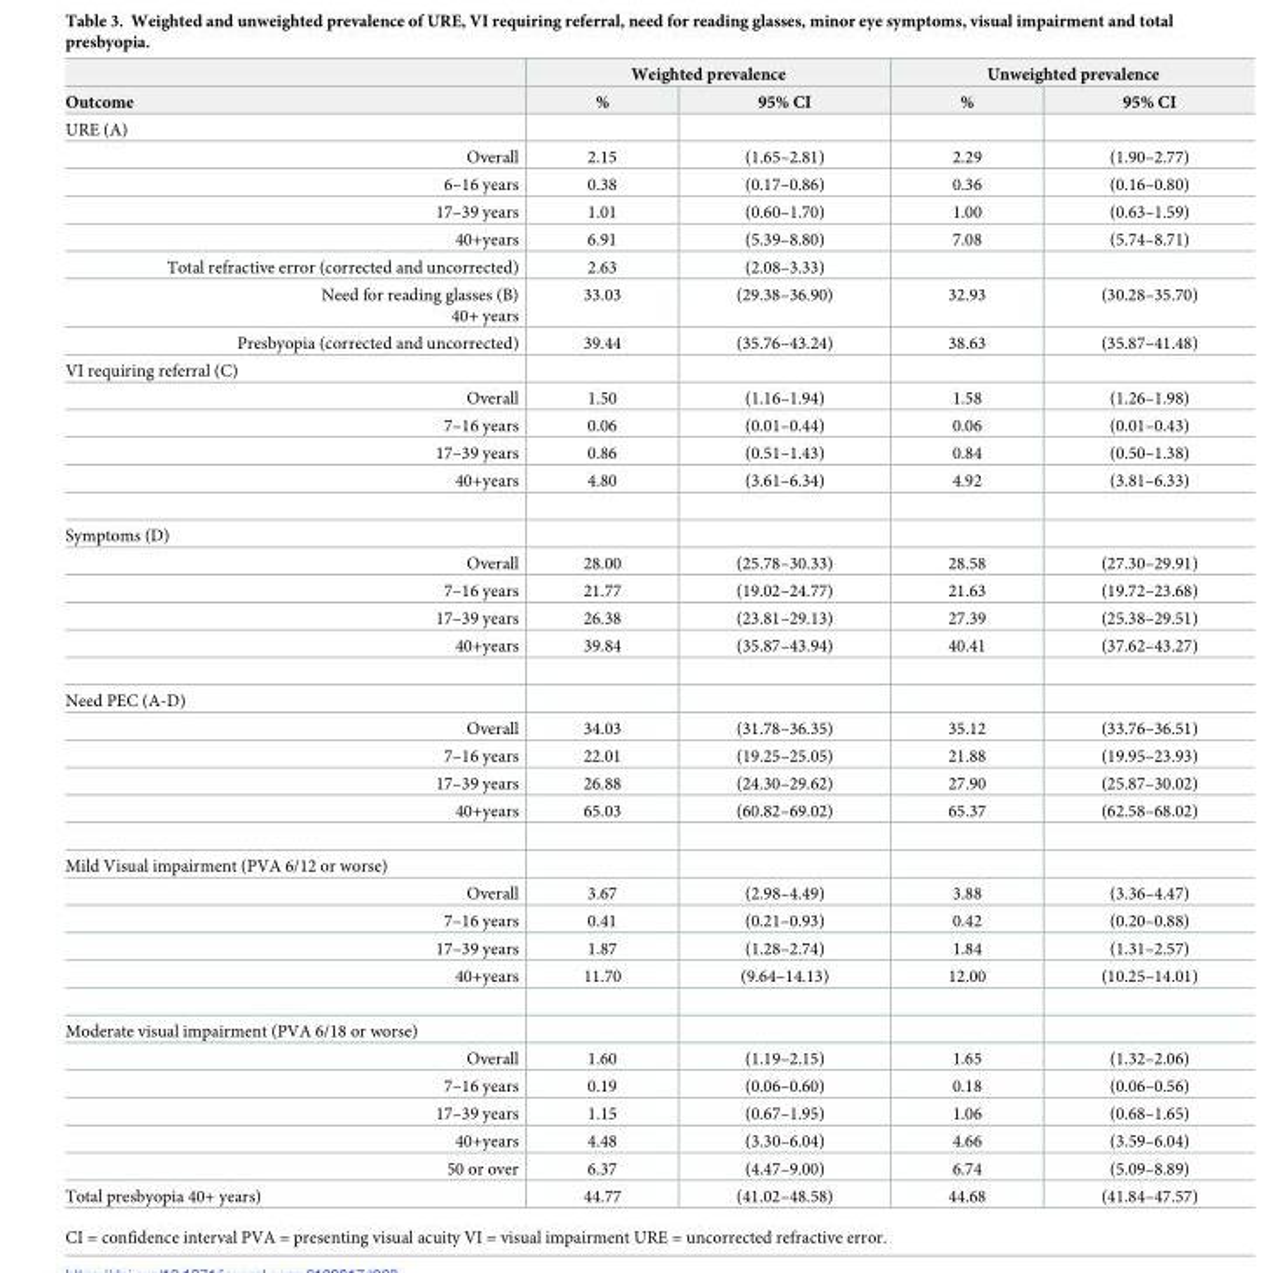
<table><thead><tr><td rowspan="2">Outcome</td><td colspan="2">Weighted prevalence</td><td colspan="2">Unweighted prevalence</td></tr><tr><td>%</td><td>95% CI</td><td>%</td><td>95% CI</td></tr></thead><tbody><tr><td colspan="5">URE (A)</td></tr><tr><td>Overall</td><td>2.15</td><td>(1.65–2.81)</td><td>2.29</td><td>(1.90–2.77)</td></tr><tr><td>6–16 years</td><td>0.38</td><td>(0.17–0.86)</td><td>0.36</td><td>(0.16–0.80)</td></tr><tr><td>17–39 years</td><td>1.01</td><td>(0.60–1.70)</td><td>1.00</td><td>(0.63–1.59)</td></tr><tr><td>40+years</td><td>6.91</td><td>(5.39–8.80)</td><td>7.08</td><td>(5.74–8.71)</td></tr><tr><td>Total refractive error (corrected and uncorrected)</td><td>2.63</td><td>(2.08–3.33)</td><td></td><td></td></tr><tr><td>Need for reading glasses (B) 40+ years</td><td>33.03</td><td>(29.38–36.90)</td><td>32.93</td><td>(30.28–35.70)</td></tr><tr><td>Presbyopia (corrected and uncorrected)</td><td>39.44</td><td>(35.76–43.24)</td><td>38.63</td><td>(35.87–41.48)</td></tr><tr><td colspan="5">VI requiring referral (C)</td></tr><tr><td>Overall</td><td>1.50</td><td>(1.16–1.94)</td><td>1.58</td><td>(1.26–1.98)</td></tr><tr><td>7–16 years</td><td>0.06</td><td>(0.01–0.44)</td><td>0.06</td><td>(0.01–0.43)</td></tr><tr><td>17–39 years</td><td>0.86</td><td>(0.51–1.43)</td><td>0.84</td><td>(0.50–1.38)</td></tr><tr><td>40+years</td><td>4.80</td><td>(3.61–6.34)</td><td>4.92</td><td>(3.81–6.33)</td></tr><tr><td colspan="5">Symptoms (D)</td></tr><tr><td>Overall</td><td>28.00</td><td>(25.78–30.33)</td><td>28.58</td><td>(27.30–29.91)</td></tr><tr><td>7–16 years</td><td>21.77</td><td>(19.02–24.77)</td><td>21.63</td><td>(19.72–23.68)</td></tr><tr><td>17–39 years</td><td>26.38</td><td>(23.81–29.13)</td><td>27.39</td><td>(25.38–29.51)</td></tr><tr><td>40+years</td><td>39.84</td><td>(35.87–43.94)</td><td>40.41</td><td>(37.62–43.27)</td></tr><tr><td colspan="5">Need PEC (A-D)</td></tr><tr><td>Overall</td><td>34.03</td><td>(31.78–36.35)</td><td>35.12</td><td>(33.76–36.51)</td></tr><tr><td>7–16 years</td><td>22.01</td><td>(19.25–25.05)</td><td>21.88</td><td>(19.95–23.93)</td></tr><tr><td>17–39 years</td><td>26.88</td><td>(24.30–29.62)</td><td>27.90</td><td>(25.87–30.02)</td></tr><tr><td>40+years</td><td>65.03</td><td>(60.82–69.02)</td><td>65.37</td><td>(62.58–68.02)</td></tr><tr><td colspan="5">Mild Visual impairment (PVA 6/12 or worse)</td></tr><tr><td>Overall</td><td>3.67</td><td>(2.98–4.49)</td><td>3.88</td><td>(3.36–4.47)</td></tr><tr><td>7–16 years</td><td>0.41</td><td>(0.21–0.93)</td><td>0.42</td><td>(0.20–0.88)</td></tr><tr><td>17–39 years</td><td>1.87</td><td>(1.28–2.74)</td><td>1.84</td><td>(1.31–2.57)</td></tr><tr><td>40+years</td><td>11.70</td><td>(9.64–14.13)</td><td>12.00</td><td>(10.25–14.01)</td></tr><tr><td colspan="5">Moderate visual impairment (PVA 6/18 or worse)</td></tr><tr><td>Overall</td><td>1.60</td><td>(1.19–2.15)</td><td>1.65</td><td>(1.32–2.06)</td></tr><tr><td>7–16 years</td><td>0.19</td><td>(0.06–0.60)</td><td>0.18</td><td>(0.06–0.56)</td></tr><tr><td>17–39 years</td><td>1.15</td><td>(0.67–1.95)</td><td>1.06</td><td>(0.68–1.65)</td></tr><tr><td>40+years</td><td>4.48</td><td>(3.30–6.04)</td><td>4.66</td><td>(3.59–6.04)</td></tr><tr><td>50 or over</td><td>6.37</td><td>(4.47–9.00)</td><td>6.74</td><td>(5.09–8.89)</td></tr><tr><td>Total presbyopia 40+ years)</td><td>44.77</td><td>(41.02–48.58)</td><td>44.68</td><td>(41.84–47.57)</td></tr></tbody></table>